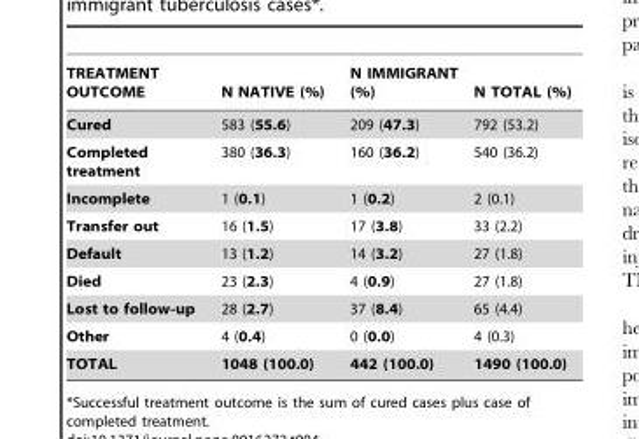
<table><thead><tr><td>TREATMENT OUTCOME</td><td>N NATIVE (%)</td><td>N IMMIGRANT (%)</td><td>N TOTAL (%)</td></tr></thead><tbody><tr><td>Cured</td><td>583 (55.6)</td><td>209 (47.3)</td><td>792 (53.2)</td></tr><tr><td>Completed treatment</td><td>380 (36.3)</td><td>160 (36.2)</td><td>540 (36.2)</td></tr><tr><td>Incomplete</td><td>1 (0.1)</td><td>1 (0.2)</td><td>2 (0.1)</td></tr><tr><td>Transfer out</td><td>16 (1.5)</td><td>17 (3.8)</td><td>33 (2.2)</td></tr><tr><td>Default</td><td>13 (1.2)</td><td>14 (3.2)</td><td>27 (1.8)</td></tr><tr><td>Died</td><td>23 (2.3)</td><td>4 (0.9)</td><td>27 (1.8)</td></tr><tr><td>Lost to follow-up</td><td>28 (2.7)</td><td>37 (8.4)</td><td>65 (4.4)</td></tr><tr><td>Other</td><td>4 (0.4)</td><td>0 (0.0)</td><td>4 (0.3)</td></tr><tr><td>TOTAL</td><td>1048 (100.0)</td><td>442 (100.0)</td><td>1490 (100.0)</td></tr></tbody></table>